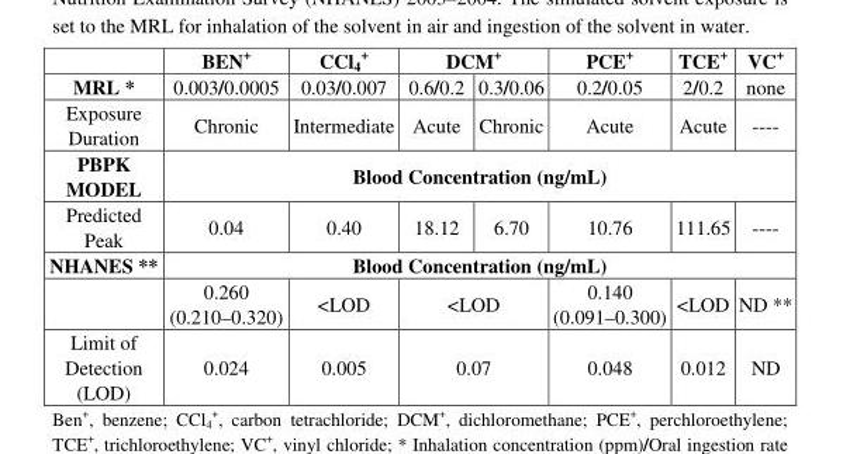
<table><thead><tr><td rowspan="2">MRL *</td><td rowspan="2">BEN<sup>+</sup> 0.003/0.0005</td><td rowspan="2">CCl<sub>4</sub> <sup>+</sup> 0.03/0.007</td><td colspan="2">DCM<sup>+</sup></td><td rowspan="2">PCE<sup>+</sup> 0.2/0.05</td><td rowspan="2">TCE<sup>+</sup> 2/0.2</td><td rowspan="2">VC<sup>+</sup> none</td></tr><tr><td>0.6/0.2</td><td>0.3/0.06</td></tr></thead><tbody><tr><td>Exposure Duration</td><td>Chronic</td><td>Intermediate</td><td>Acute</td><td>Chronic</td><td>Acute</td><td>Acute</td><td>----</td></tr><tr><td>PBPK MODEL</td><td colspan="7">Blood Concentration (ng/mL)</td></tr><tr><td>Predicted Peak</td><td>0.04</td><td>0.40</td><td>18.12</td><td>6.70</td><td>10.76</td><td>111.65</td><td>----</td></tr><tr><td rowspan="2">NHANES **</td><td colspan="7">Blood Concentration (ng/mL)</td></tr><tr><td>0.260 (0.210–0.320)</td><td>&lt;LOD</td><td colspan="2">&lt;LOD</td><td>0.140 (0.091–0.300)</td><td>&lt;LOD</td><td>ND **</td></tr><tr><td>Limit of Detection (LOD)</td><td>0.024</td><td>0.005</td><td colspan="2">0.07</td><td>0.048</td><td>0.012</td><td>ND</td></tr></tbody></table>